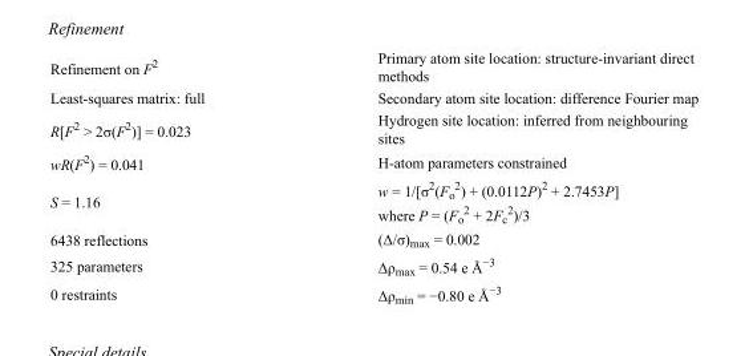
<table><tbody><tr><td>Refinement on F<sup>2</sup></td><td>Primary atom site location: structure-invariant direct methods</td></tr><tr><td>Least-squares matrix: full</td><td>Secondary atom site location: difference Fourier map</td></tr><tr><td>R[F<sup>2</sup> &gt; 2σ(F<sup>2</sup>)] = 0.023</td><td>Hydrogen site location: inferred from neighbouring sites</td></tr><tr><td>wR(F<sup>2</sup>) = 0.041</td><td>H-atom parameters constrained</td></tr><tr><td>S = 1.16</td><td>w = 1/[σ<sup>2</sup>(F<sub>o</sub> <sup>2</sup>) + (0.0112P)<sup>2</sup> + 2.7453P] where P = (F<sub>o</sub> <sup>2</sup> + 2F<sub>c</sub> <sup>2</sup>)/3</td></tr><tr><td>6438 reflections</td><td>(Δ/σ)<sub>max</sub> = 0.002</td></tr><tr><td>325 parameters</td><td>Δρ<sub>max</sub> = 0.54 e Å<sup>−3</sup></td></tr><tr><td>0 restraints</td><td>Δρ<sub>min</sub> = −0.80 e Å<sup>−3</sup></td></tr></tbody></table>